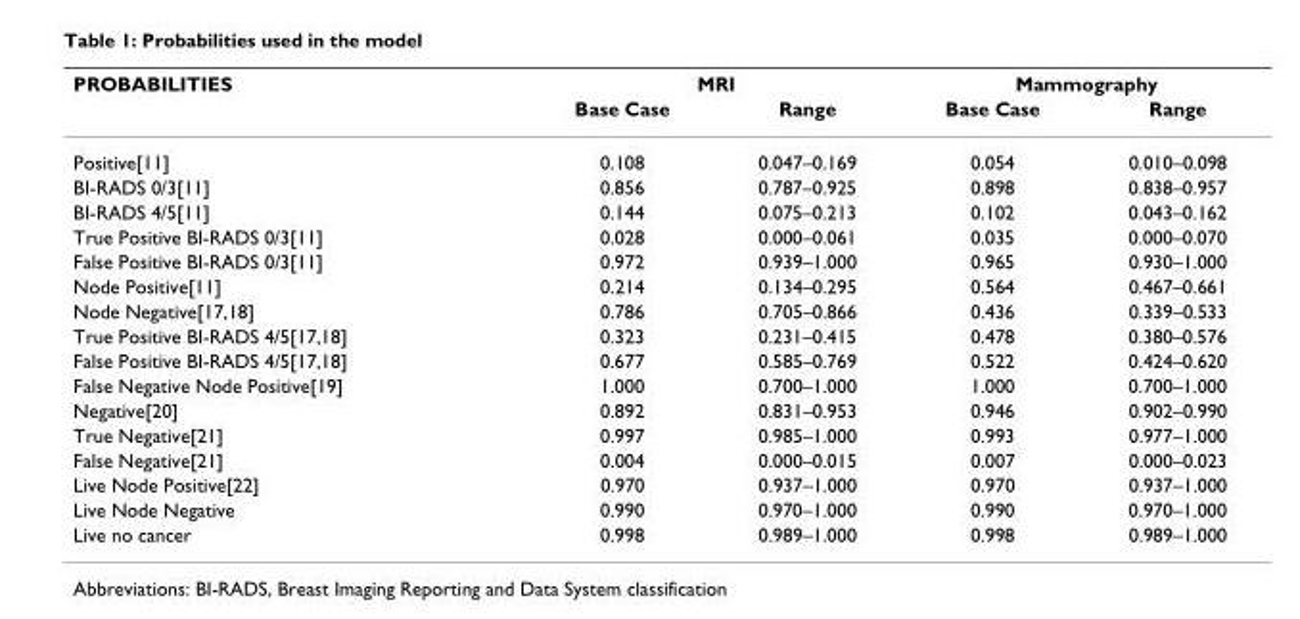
<table><thead><tr><td rowspan="2">PROBABILITIES</td><td colspan="2">MRI</td><td colspan="2">Mammography</td></tr><tr><td>Base Case</td><td>Range</td><td>Base Case</td><td>Range</td></tr></thead><tbody><tr><td>Positive[11]</td><td>0.108</td><td>0.047–0.169</td><td>0.054</td><td>0.010–0.098</td></tr><tr><td>BI-RADS 0/3[11]</td><td>0.856</td><td>0.787–0.925</td><td>0.898</td><td>0.838–0.957</td></tr><tr><td>BI-RADS 4/5[11]</td><td>0.144</td><td>0.075–0.213</td><td>0.102</td><td>0.043–0.162</td></tr><tr><td>True Positive BI-RADS 0/3[11]</td><td>0.028</td><td>0.000–0.061</td><td>0.035</td><td>0.000–0.070</td></tr><tr><td>False Positive BI-RADS 0/3[11]</td><td>0.972</td><td>0.939–1.000</td><td>0.965</td><td>0.930–1.000</td></tr><tr><td>Node Positive[11]</td><td>0.214</td><td>0.134–0.295</td><td>0.564</td><td>0.467–0.661</td></tr><tr><td>Node Negative[17,18]</td><td>0.786</td><td>0.705–0.866</td><td>0.436</td><td>0.339–0.533</td></tr><tr><td>True Positive BI-RADS 4/5[17,18]</td><td>0.323</td><td>0.231–0.415</td><td>0.478</td><td>0.380–0.576</td></tr><tr><td>False Positive BI-RADS 4/5[17,18]</td><td>0.677</td><td>0.585–0.769</td><td>0.522</td><td>0.424–0.620</td></tr><tr><td>False Negative Node Positive[19]</td><td>1.000</td><td>0.700–1.000</td><td>1.000</td><td>0.700–1.000</td></tr><tr><td>Negative[20]</td><td>0.892</td><td>0.831–0.953</td><td>0.946</td><td>0.902–0.990</td></tr><tr><td>True Negative[21]</td><td>0.997</td><td>0.985–1.000</td><td>0.993</td><td>0.977–1.000</td></tr><tr><td>False Negative[21]</td><td>0.004</td><td>0.000–0.015</td><td>0.007</td><td>0.000–0.023</td></tr><tr><td>Live Node Positive[22]</td><td>0.970</td><td>0.937–1.000</td><td>0.970</td><td>0.937–1.000</td></tr><tr><td>Live Node Negative</td><td>0.990</td><td>0.970–1.000</td><td>0.990</td><td>0.970–1.000</td></tr><tr><td>Live no cancer</td><td>0.998</td><td>0.989–1.000</td><td>0.998</td><td>0.989–1.000</td></tr></tbody></table>